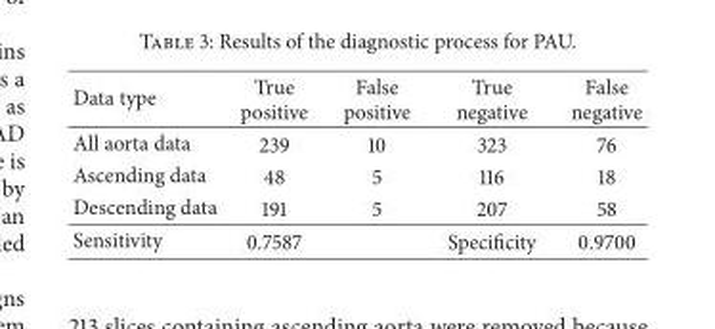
<table><thead><tr><td>Data type</td><td>True positive</td><td>False positive</td><td>True negative</td><td>False negative</td></tr></thead><tbody><tr><td>All aorta data</td><td>239</td><td>10</td><td>323</td><td>76</td></tr><tr><td>Ascending data</td><td>48</td><td>5</td><td>116</td><td>18</td></tr><tr><td>Descending data</td><td>191</td><td>5</td><td>207</td><td>58</td></tr><tr><td>Sensitivity</td><td>0.7587</td><td></td><td>Specificity</td><td>0.9700</td></tr></tbody></table>